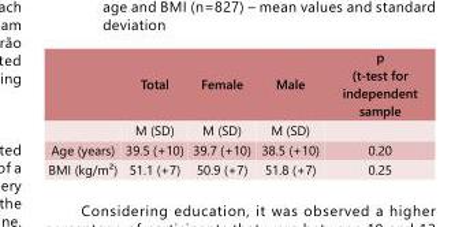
<table><thead><tr><td></td><td>Total</td><td>Female</td><td>Male</td><td>p (t-test for independent sample</td></tr></thead><tbody><tr><td></td><td>M (SD)</td><td>M (SD)</td><td>M (SD)</td><td></td></tr><tr><td>Age (years)</td><td>39.5 (+10)</td><td>39.7 (+10)</td><td>38.5 (+10)</td><td>0.20</td></tr><tr><td>BMI (kg/m²)</td><td>51.1 (+7)</td><td>50.9 (+7)</td><td>51.8 (+7)</td><td>0.25</td></tr></tbody></table>